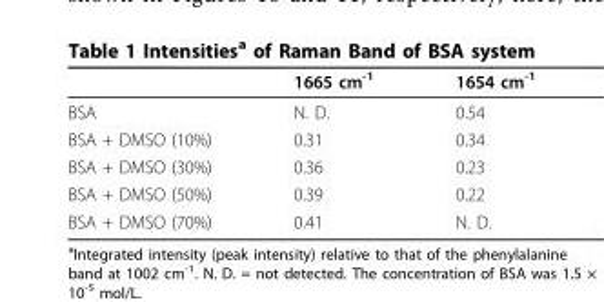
<table><thead><tr><td></td><td>1665 cm<sup>-1</sup></td><td>1654 cm<sup>-1</sup></td></tr></thead><tbody><tr><td>BSA</td><td>N. D.</td><td>0.54</td></tr><tr><td>BSA + DMSO (10%)</td><td>0.31</td><td>0.34</td></tr><tr><td>BSA + DMSO (30%)</td><td>0.36</td><td>0.23</td></tr><tr><td>BSA + DMSO (50%)</td><td>0.39</td><td>0.22</td></tr><tr><td>BSA + DMSO (70%)</td><td>0.41</td><td>N. D.</td></tr></tbody></table>